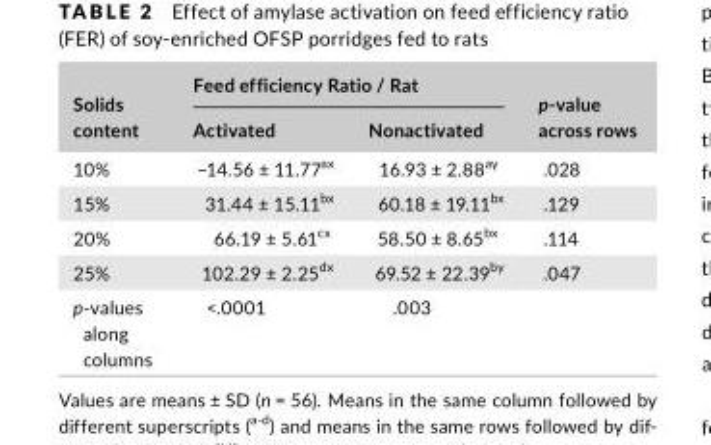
<table><thead><tr><td rowspan="2">Solids content</td><td colspan="2">Feed efficiency Ratio / Rat</td><td rowspan="2">p- value across rows</td></tr><tr><td>Activated</td><td>Nonactivated</td></tr></thead><tbody><tr><td>10%</td><td>−14.56 ± 11.77<sup>ax</sup></td><td>16.93 ± 2.88<sup>ay</sup></td><td>.028</td></tr><tr><td>15%</td><td>31.44 ± 15.11<sup>bx</sup></td><td>60.18 ± 19.11<sup>bx</sup></td><td>.129</td></tr><tr><td>20%</td><td>66.19 ± 5.61<sup>cx</sup></td><td>58.50 ± 8.65<sup>bx</sup></td><td>.114</td></tr><tr><td>25%</td><td>102.29 ± 2.25<sup>dx</sup></td><td>69.52 ± 22.39<sup>by</sup></td><td>.047</td></tr><tr><td>p- values along columns</td><td>&lt;.0001</td><td>.003</td><td></td></tr></tbody></table>